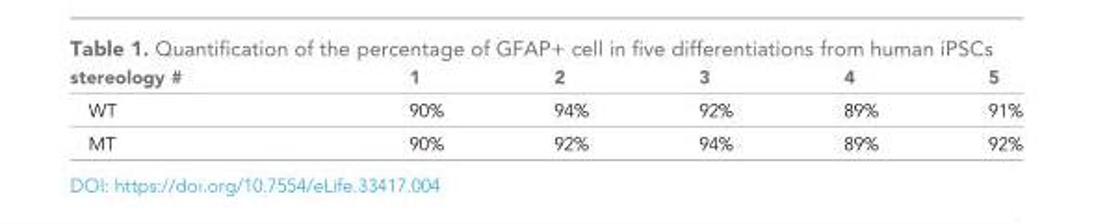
<table><thead><tr><td>stereology #</td><td>1</td><td>2</td><td>3</td><td>4</td><td>5</td></tr></thead><tbody><tr><td>WT</td><td>90%</td><td>94%</td><td>92%</td><td>89%</td><td>91%</td></tr><tr><td>MT</td><td>90%</td><td>92%</td><td>94%</td><td>89%</td><td>92%</td></tr></tbody></table>